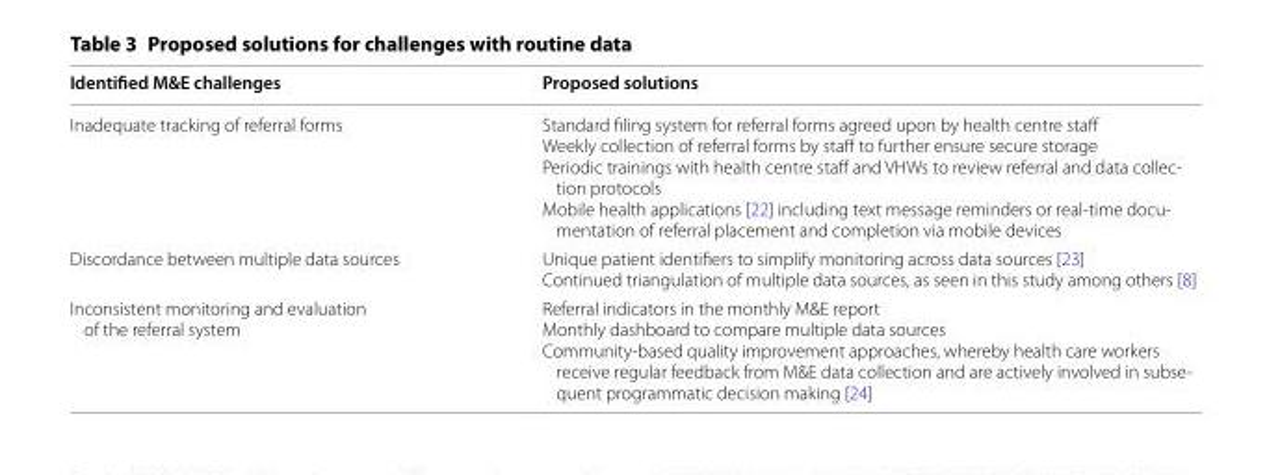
<table><thead><tr><td>Identified M&amp;E challenges</td><td>Proposed solutions</td></tr></thead><tbody><tr><td>Inadequate tracking of referral forms</td><td>Standard filing system for referral forms agreed upon by health centre staff Weekly collection of referral forms by staff to further ensure secure storage Periodic trainings with health centre staff and VHWs to review referral and data collec- tion protocols Mobile health applications [22] including text message reminders or real-time docu- mentation of referral placement and completion via mobile devices</td></tr><tr><td>Discordance between multiple data sources</td><td>Unique patient identifiers to simplify monitoring across data sources [23] Continued triangulation of multiple data sources, as seen in this study among others [8]</td></tr><tr><td>Inconsistent monitoring and evaluation of the referral system</td><td>Referral indicators in the monthly M&amp;E report Monthly dashboard to compare multiple data sources Community-based quality improvement approaches, whereby health care workers receive regular feedback from M&amp;E data collection and are actively involved in subse- quent programmatic decision making [24]</td></tr></tbody></table>